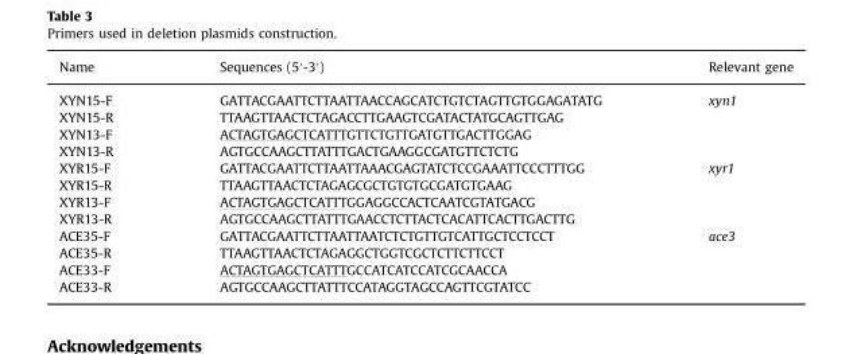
<table><thead><tr><td>Name</td><td>Sequences (5′-3′)</td><td>Relevant gene</td></tr></thead><tbody><tr><td>XYN15-F</td><td>GATTACGAATTCTTAATTAACCAGCATCTGTCTAGTTGTGGAGATATG</td><td rowspan="4">xyn1</td></tr><tr><td>XYN15-R</td><td>TTAAGTTAACTCTAGACCTTGAAGTCGATACTATGCAGTTGAG</td></tr><tr><td>XYN13-F</td><td>ACTAGTGAGCTCATTTGTTCTGTTGATGTTGACTTGGAG</td></tr><tr><td>XYN13-R</td><td>AGTGCCAAGCTTATTTGACTGAAGGCGATGTTCTCTG</td></tr><tr><td>XYR15-F</td><td>GATTACGAATTCTTAATTAAACGAGTATCTCCGAAATTCCCTTTGG</td><td rowspan="4">xyr1</td></tr><tr><td>XYR15-R</td><td>TTAAGTTAACTCTAGAGCGCTGTGTGCGATGTGAAG</td></tr><tr><td>XYR13-F</td><td>ACTAGTGAGCTCATTTGGAGGCCACTCAATCGTATGACG</td></tr><tr><td>XYR13-R</td><td>AGTGCCAAGCTTATTTGAACCTCTTACTCACATTCACTTGACTTG</td></tr><tr><td>ACE35-F</td><td>GATTACGAATTCTTAATTAATCTCTGTTGTCATTGCTCCTCCT</td><td rowspan="4">ace3</td></tr><tr><td>ACE35-R</td><td>TTAAGTTAACTCTAGAGGCTGGTCGCTCTTCTTCCT</td></tr><tr><td>ACE33-F</td><td>ACTAGTGAGCTCATTTGCCATCATCCATCGCAACCA</td></tr><tr><td>ACE33-R</td><td>AGTGCCAAGCTTATTTCCATAGGTAGCCAGTTCGTATCC</td></tr></tbody></table>